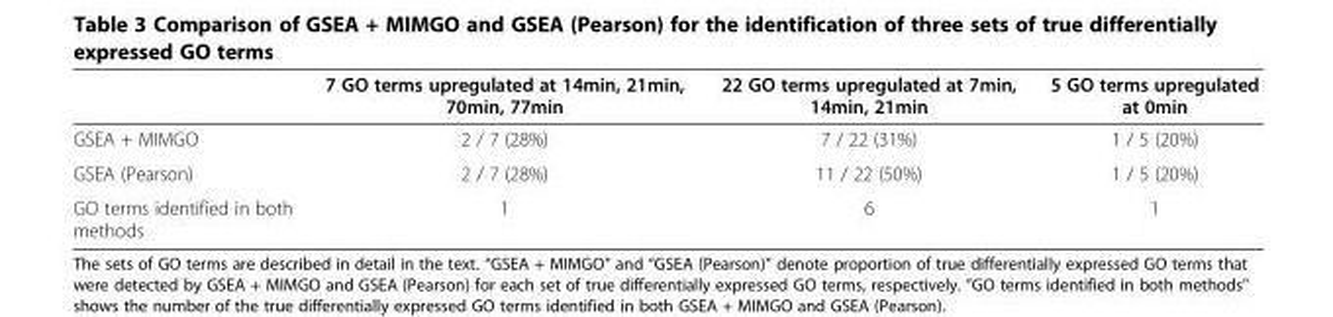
<table><thead><tr><td></td><td>7 GO terms upregulated at 14min, 21min, 70min, 77min</td><td>22 GO terms upregulated at 7min, 14min, 21min</td><td>5 GO terms upregulated at 0min</td></tr></thead><tbody><tr><td>GSEA + MIMGO</td><td>2 / 7 (28%)</td><td>7 / 22 (31%)</td><td>1 / 5 (20%)</td></tr><tr><td>GSEA (Pearson)</td><td>2 / 7 (28%)</td><td>11 / 22 (50%)</td><td>1 / 5 (20%)</td></tr><tr><td>GO terms identified in both methods</td><td>1</td><td>6</td><td>1</td></tr></tbody></table>